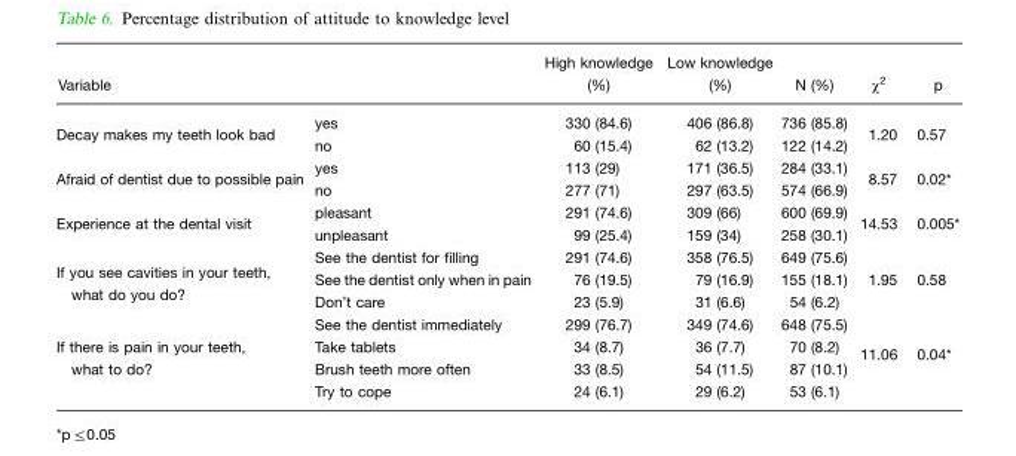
<table><thead><tr><td>Variable</td><td></td><td>High knowledge (%)</td><td>Low knowledge (%)</td><td>N (%)</td><td>χ<sup>2</sup></td><td>p</td></tr></thead><tbody><tr><td rowspan="2">Decay makes my teeth look bad</td><td>yes</td><td>330 (84.6)</td><td>406 (86.8)</td><td>736 (85.8)</td><td rowspan="2">1.20</td><td rowspan="2">0.57</td></tr><tr><td>no</td><td>60 (15.4)</td><td>62 (13.2)</td><td>122 (14.2)</td></tr><tr><td rowspan="2">Afraid of dentist due to possible pain</td><td>yes</td><td>113 (29)</td><td>171 (36.5)</td><td>284 (33.1)</td><td rowspan="2">8.57</td><td rowspan="2">0.02*</td></tr><tr><td>no</td><td>277 (71)</td><td>297 (63.5)</td><td>574 (66.9)</td></tr><tr><td rowspan="2">Experience at the dental visit</td><td>pleasant</td><td>291 (74.6)</td><td>309 (66)</td><td>600 (69.9)</td><td rowspan="2">14.53</td><td rowspan="2">0.005*</td></tr><tr><td>unpleasant</td><td>99 (25.4)</td><td>159 (34)</td><td>258 (30.1)</td></tr><tr><td rowspan="4">If you see cavities in your teeth, what do you do?</td><td>See the dentist for filling</td><td>291 (74.6)</td><td>358 (76.5)</td><td>649 (75.6)</td><td></td><td></td></tr><tr><td>See the dentist only when in pain</td><td>76 (19.5)</td><td>79 (16.9)</td><td>155 (18.1)</td><td>1.95</td><td>0.58</td></tr><tr><td>Don’t care</td><td>23 (5.9)</td><td>31 (6.6)</td><td>54 (6.2)</td><td></td><td></td></tr><tr><td>See the dentist immediately</td><td>299 (76.7)</td><td>349 (74.6)</td><td>648 (75.5)</td><td></td><td></td></tr><tr><td rowspan="3">If there is pain in your teeth, what to do?</td><td>Take tablets</td><td>34 (8.7)</td><td>36 (7.7)</td><td>70 (8.2)</td><td rowspan="2">11.06</td><td rowspan="2">0.04*</td></tr><tr><td>Brush teeth more often</td><td>33 (8.5)</td><td>54 (11.5)</td><td>87 (10.1)</td></tr><tr><td>Try to cope</td><td>24 (6.1)</td><td>29 (6.2)</td><td>53 (6.1)</td><td></td><td></td></tr></tbody></table>